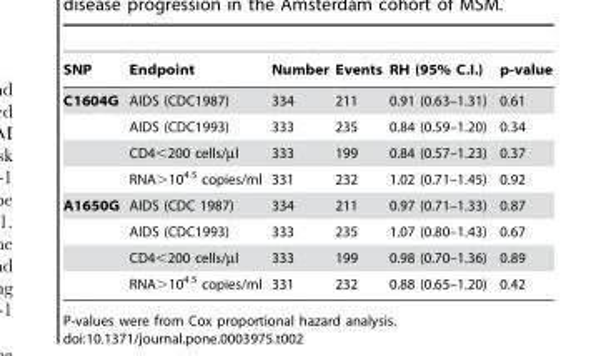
<table><thead><tr><td>SNP</td><td>Endpoint</td><td>Number</td><td>Events</td><td>RH (95% C.I.)</td><td>p-value</td></tr></thead><tbody><tr><td rowspan="4">C1604G</td><td>AIDS (CDC1987)</td><td>334</td><td>211</td><td>0.91 (0.63–1.31)</td><td>0.61</td></tr><tr><td>AIDS (CDC1993)</td><td>333</td><td>235</td><td>0.84 (0.59–1.20)</td><td>0.34</td></tr><tr><td>CD4&lt;200 cells/µl</td><td>333</td><td>199</td><td>0.84 (0.57–1.23)</td><td>0.37</td></tr><tr><td>RNA&gt;10<sup>4.5</sup> copies/ml</td><td>331</td><td>232</td><td>1.02 (0.71–1.45)</td><td>0.92</td></tr><tr><td rowspan="4">A1650G</td><td>AIDS (CDC 1987)</td><td>334</td><td>211</td><td>0.97 (0.71–1.33)</td><td>0.87</td></tr><tr><td>AIDS (CDC1993)</td><td>333</td><td>235</td><td>1.07 (0.80–1.43)</td><td>0.67</td></tr><tr><td>CD4&lt;200 cells/µl</td><td>333</td><td>199</td><td>0.98 (0.70–1.36)</td><td>0.89</td></tr><tr><td>RNA&gt;10<sup>4.5</sup> copies/ml</td><td>331</td><td>232</td><td>0.88 (0.65–1.20)</td><td>0.42</td></tr></tbody></table>